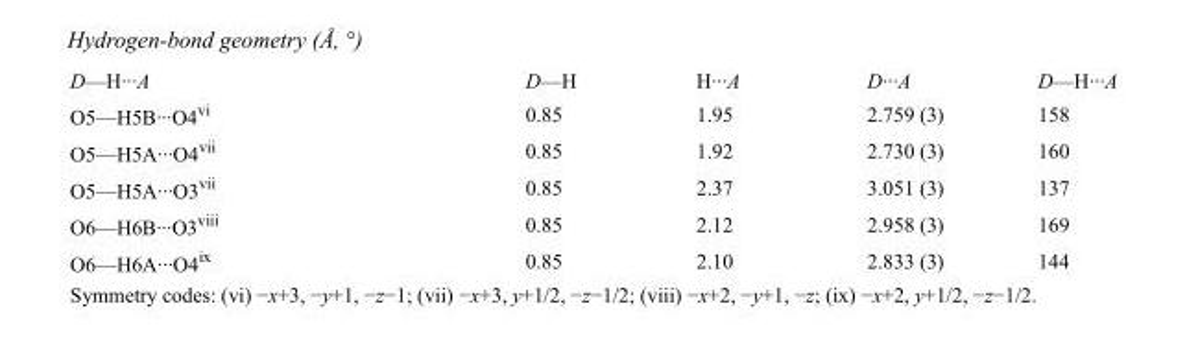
<table><tbody><tr><td>D—H···A</td><td>D—H</td><td>H···A</td><td>D···A</td><td>D—H···A</td></tr><tr><td>O5—H5B···O4<sup>vi</sup></td><td>0.85</td><td>1.95</td><td>2.759 (3)</td><td>158</td></tr><tr><td>O5—H5A···O4<sup>vii</sup></td><td>0.85</td><td>1.92</td><td>2.730 (3)</td><td>160</td></tr><tr><td>O5—H5A···O3<sup>vii</sup></td><td>0.85</td><td>2.37</td><td>3.051 (3)</td><td>137</td></tr><tr><td>O6—H6B···O3<sup>viii</sup></td><td>0.85</td><td>2.12</td><td>2.958 (3)</td><td>169</td></tr><tr><td>O6—H6A···O4<sup>ix</sup></td><td>0.85</td><td>2.10</td><td>2.833 (3)</td><td>144</td></tr></tbody></table>